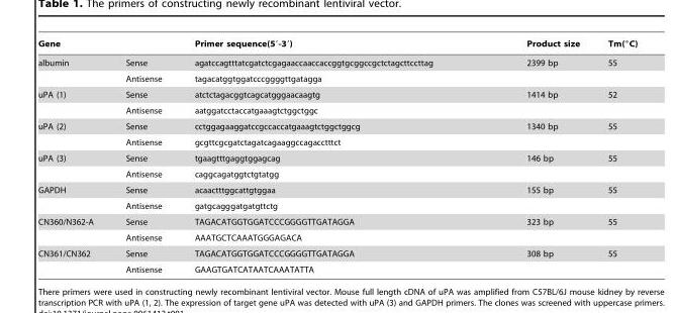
<table><thead><tr><td>Gene</td><td></td><td>Primer sequence(5′-3′)</td><td>Product size</td><td>Tm(°C)</td></tr></thead><tbody><tr><td rowspan="2">albumin</td><td>Sense</td><td>agatccagtttatcgatctcgagaaccaaccaccggtgcggccgctctagcttccttag</td><td>2399 bp</td><td>55</td></tr><tr><td>Antisense</td><td>tagacatggtggatcccggggttgatagga</td><td></td><td></td></tr><tr><td rowspan="2">uPA (1)</td><td>Sense</td><td>atctctagacggtcagcatgggaacaagtg</td><td>1414 bp</td><td>52</td></tr><tr><td>Antisense</td><td>aatggatcctaccatgaaagtctggctggc</td><td></td><td></td></tr><tr><td rowspan="2">uPA (2)</td><td>Sense</td><td>cctggagaaggatccgccaccatgaaagtctggctggcg</td><td>1340 bp</td><td>55</td></tr><tr><td>Antisense</td><td>gcgttcgcgatctagatcagaaggccagacctttct</td><td></td><td></td></tr><tr><td rowspan="2">uPA (3)</td><td>Sense</td><td>tgaagtttgaggtggagcag</td><td>146 bp</td><td>55</td></tr><tr><td>Antisense</td><td>caggcagatggtctgtatgg</td><td></td><td></td></tr><tr><td rowspan="2">GAPDH</td><td>Sense</td><td>acaactttggcattgtggaa</td><td>155 bp</td><td>55</td></tr><tr><td>Antisense</td><td>gatgcagggatgatgttctg</td><td></td><td></td></tr><tr><td rowspan="2">CN360/N362-A</td><td>Sense</td><td>TAGACATGGTGGATCCCGGGGTTGATAGGA</td><td>323 bp</td><td>55</td></tr><tr><td>Antisense</td><td>AAATGCTCAAATGGGAGACA</td><td></td><td></td></tr><tr><td rowspan="2">CN361/CN362</td><td>Sense</td><td>TAGACATGGTGGATCCCGGGGTTGATAGGA</td><td>308 bp</td><td>55</td></tr><tr><td>Antisense</td><td>GAAGTGATCATAATCAAATATTA</td><td></td><td></td></tr></tbody></table>